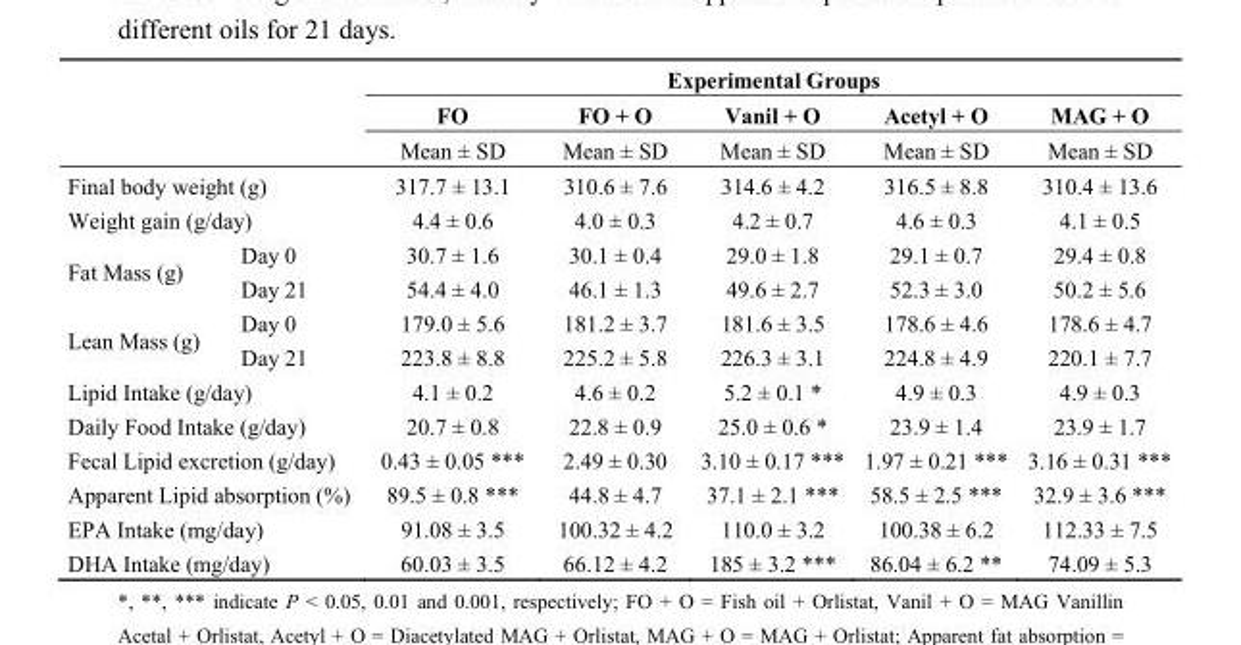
<table><thead><tr><td rowspan="3"></td><td rowspan="3"></td><td colspan="5">Experimental Groups</td></tr><tr><td rowspan="2">FO Mean ± SD</td><td rowspan="2">FO + O Mean ± SD</td><td rowspan="2">Vanil + O Mean ± SD</td><td rowspan="2">Acetyl + O Mean ± SD</td><td rowspan="2">MAG + O Mean ± SD</td></tr><tr></tr></thead><tbody><tr><td colspan="2">Final body weight (g)</td><td>317.7 ± 13.1</td><td>310.6 ± 7.6</td><td>314.6 ± 4.2</td><td>316.5 ± 8.8</td><td>310.4 ± 13.6</td></tr><tr><td colspan="2">Weight gain (g/day)</td><td>4.4 ± 0.6</td><td>4.0 ± 0.3</td><td>4.2 ± 0.7</td><td>4.6 ± 0.3</td><td>4.1 ± 0.5</td></tr><tr><td rowspan="2">Fat Mass (g)</td><td>Day 0</td><td>30.7 ± 1.6</td><td>30.1 ± 0.4</td><td>29.0 ± 1.8</td><td>29.1 ± 0.7</td><td>29.4 ± 0.8</td></tr><tr><td>Day 21</td><td>54.4 ± 4.0</td><td>46.1 ± 1.3</td><td>49.6 ± 2.7</td><td>52.3 ± 3.0</td><td>50.2 ± 5.6</td></tr><tr><td rowspan="2">Lean Mass (g)</td><td>Day 0</td><td>179.0 ± 5.6</td><td>181.2 ± 3.7</td><td>181.6 ± 3.5</td><td>178.6 ± 4.6</td><td>178.6 ± 4.7</td></tr><tr><td>Day 21</td><td>223.8 ± 8.8</td><td>225.2 ± 5.8</td><td>226.3 ± 3.1</td><td>224.8 ± 4.9</td><td>220.1 ± 7.7</td></tr><tr><td colspan="2">Lipid Intake (g/day)</td><td>4.1 ± 0.2</td><td>4.6 ± 0.2</td><td>5.2 ± 0.1 *</td><td>4.9 ± 0.3</td><td>4.9 ± 0.3</td></tr><tr><td colspan="2">Daily Food Intake (g/day)</td><td>20.7 ± 0.8</td><td>22.8 ± 0.9</td><td>25.0 ± 0.6 *</td><td>23.9 ± 1.4</td><td>23.9 ± 1.7</td></tr><tr><td colspan="2">Fecal Lipid excretion (g/day)</td><td>0.43 ± 0.05 ***</td><td>2.49 ± 0.30</td><td>3.10 ± 0.17 ***</td><td>1.97 ± 0.21 ***</td><td>3.16 ± 0.31 ***</td></tr><tr><td colspan="2">Apparent Lipid absorption (%)</td><td>89.5 ± 0.8 ***</td><td>44.8 ± 4.7</td><td>37.1 ± 2.1 ***</td><td>58.5 ± 2.5 ***</td><td>32.9 ± 3.6 ***</td></tr><tr><td colspan="2">EPA Intake (mg/day)</td><td>91.08 ± 3.5</td><td>100.32 ± 4.2</td><td>110.0 ± 3.2</td><td>100.38 ± 6.2</td><td>112.33 ± 7.5</td></tr><tr><td colspan="2">DHA Intake (mg/day)</td><td>60.03 ± 3.5</td><td>66.12 ± 4.2</td><td>185 ± 3.2 ***</td><td>86.04 ± 6.2 **</td><td>74.09 ± 5.3</td></tr></tbody></table>